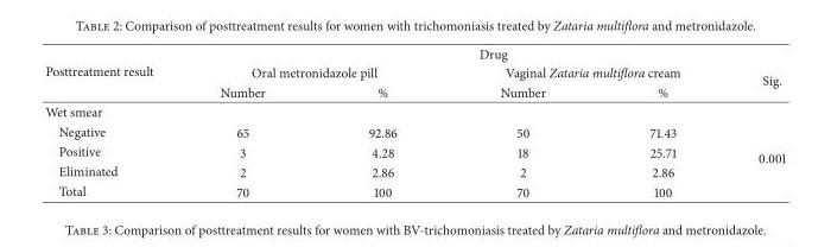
<table><thead><tr><td rowspan="3">Posttreatment result</td><td colspan="5">Drug</td></tr><tr><td colspan="2">Oral metronidazole pill</td><td colspan="2">Vaginal Zataria multiflora cream</td><td rowspan="2">Sig.</td></tr><tr><td>Number</td><td>%</td><td>Number</td><td>%</td></tr></thead><tbody><tr><td colspan="6">Wet smear</td></tr><tr><td>Negative</td><td>65</td><td>92.86</td><td>50</td><td>71.43</td><td rowspan="4">0.001</td></tr><tr><td>Positive</td><td>3</td><td>4.28</td><td>18</td><td>25.71</td></tr><tr><td>Eliminated</td><td>2</td><td>2.86</td><td>2</td><td>2.86</td></tr><tr><td>Total</td><td>70</td><td>100</td><td>70</td><td>100</td></tr></tbody></table>